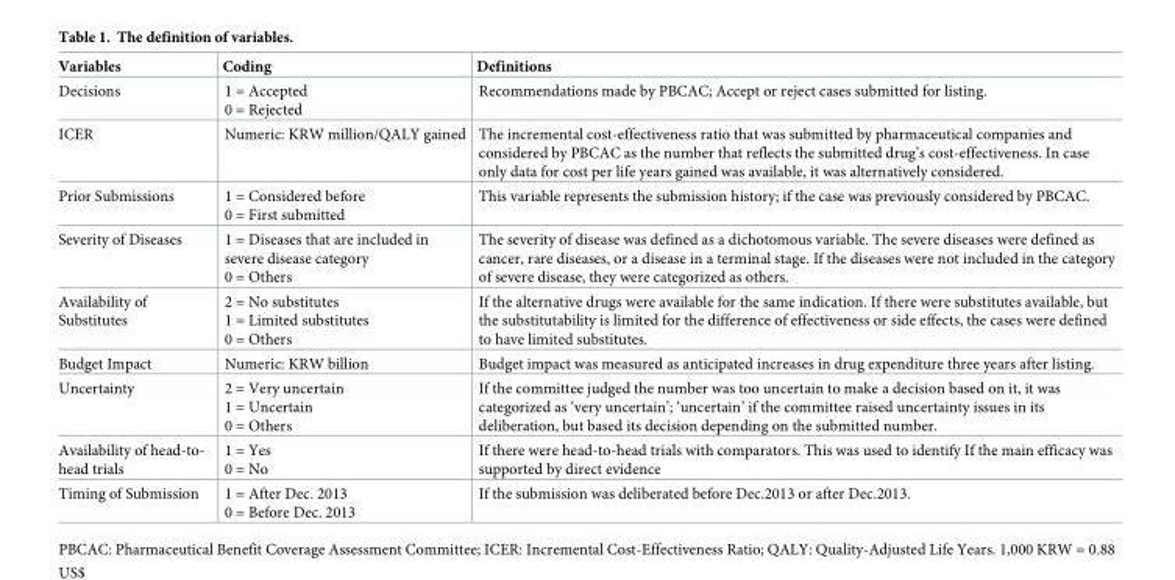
<table><thead><tr><td>Variables</td><td>Coding</td><td>Definitions</td></tr></thead><tbody><tr><td>Decisions</td><td>1 = Accepted 0 = Rejected</td><td>Recommendations made by PBCAC; Accept or reject cases submitted for listing.</td></tr><tr><td>ICER</td><td>Numeric: KRW million/QALY gained</td><td>The incremental cost-effectiveness ratio that was submitted by pharmaceutical companies and considered by PBCAC as the number that reflects the submitted drug’s cost-effectiveness. In case only data for cost per life years gained was available, it was alternatively considered.</td></tr><tr><td>Prior Submissions</td><td>1 = Considered before 0 = First submitted</td><td>This variable represents the submission history; if the case was previously considered by PBCAC.</td></tr><tr><td>Severity of Diseases</td><td>1 = Diseases that are included in severe disease category 0 = Others</td><td>The severity of disease was defined as a dichotomous variable. The severe diseases were defined as cancer, rare diseases, or a disease in a terminal stage. If the diseases were not included in the category of severe disease, they were categorized as others.</td></tr><tr><td>Availability of Substitutes</td><td>2 = No substitutes 1 = Limited substitutes 0 = Others</td><td>If the alternative drugs were available for the same indication. If there were substitutes available, but the substitutability is limited for the difference of effectiveness or side effects, the cases were defined to have limited substitutes.</td></tr><tr><td>Budget Impact</td><td>Numeric: KRW billion</td><td>Budget impact was measured as anticipated increases in drug expenditure three years after listing.</td></tr><tr><td>Uncertainty</td><td>2 = Very uncertain 1 = Uncertain 0 = Others</td><td>If the committee judged the number was too uncertain to make a decision based on it, it was categorized as ‘very uncertain’; ‘uncertain’ if the committee raised uncertainty issues in its deliberation, but based its decision depending on the submitted number.</td></tr><tr><td>Availability of head-to- head trials</td><td>1 = Yes 0 = No</td><td>If there were head-to-head trials with comparators. This was used to identify If the main efficacy was supported by direct evidence</td></tr><tr><td>Timing of Submission</td><td>1 = After Dec. 2013 0 = Before Dec. 2013</td><td>If the submission was deliberated before Dec.2013 or after Dec.2013.</td></tr></tbody></table>